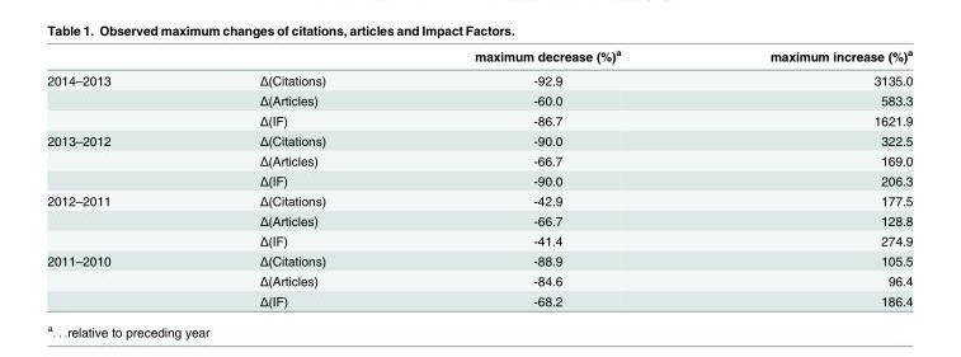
<table><thead><tr><td></td><td></td><td>maximum decrease (%)<sup>a</sup></td><td>maximum increase (%)<sup>a</sup></td></tr></thead><tbody><tr><td rowspan="3">2014–2013</td><td>Δ(Citations)</td><td>-92.9</td><td>3135.0</td></tr><tr><td>Δ(Articles)</td><td>-60.0</td><td>583.3</td></tr><tr><td>Δ(IF)</td><td>-86.7</td><td>1621.9</td></tr><tr><td rowspan="3">2013–2012</td><td>Δ(Citations)</td><td>-90.0</td><td>322.5</td></tr><tr><td>Δ(Articles)</td><td>-66.7</td><td>169.0</td></tr><tr><td>Δ(IF)</td><td>-90.0</td><td>206.3</td></tr><tr><td rowspan="3">2012–2011</td><td>Δ(Citations)</td><td>-42.9</td><td>177.5</td></tr><tr><td>Δ(Articles)</td><td>-66.7</td><td>128.8</td></tr><tr><td>Δ(IF)</td><td>-41.4</td><td>274.9</td></tr><tr><td rowspan="3">2011–2010</td><td>Δ(Citations)</td><td>-88.9</td><td>105.5</td></tr><tr><td>Δ(Articles)</td><td>-84.6</td><td>96.4</td></tr><tr><td>Δ(IF)</td><td>-68.2</td><td>186.4</td></tr></tbody></table>